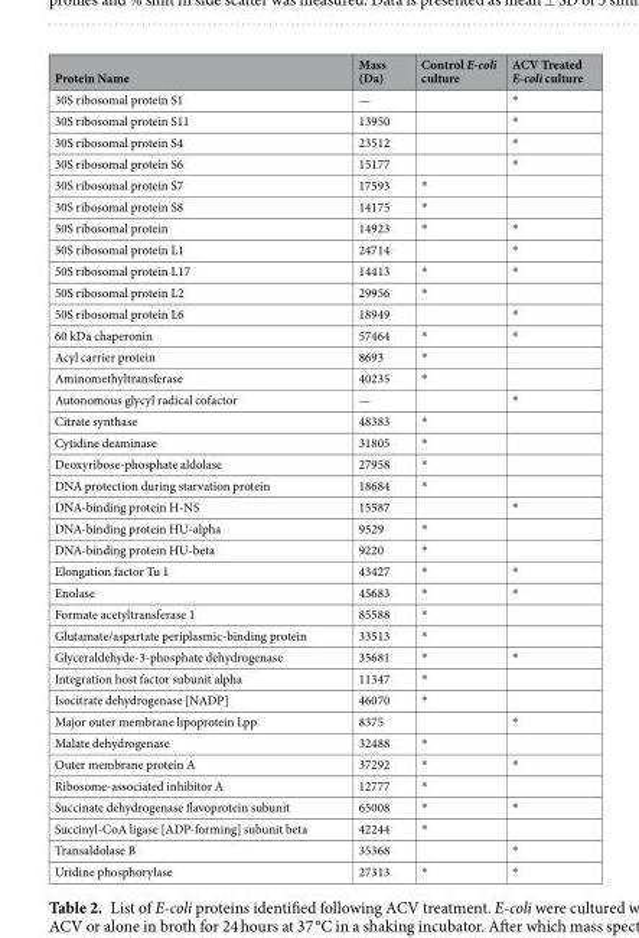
<table><thead><tr><td>Protein Name</td><td>Mass (Da)</td><td>Control E-coli culture</td><td>ACV Treated E-coli culture</td></tr></thead><tbody><tr><td>30S ribosomal protein S1</td><td>—</td><td></td><td>*</td></tr><tr><td>30S ribosomal protein S11</td><td>13950</td><td></td><td>*</td></tr><tr><td>30S ribosomal protein S4</td><td>23512</td><td></td><td>*</td></tr><tr><td>30S ribosomal protein S6</td><td>15177</td><td></td><td>*</td></tr><tr><td>30S ribosomal protein S7</td><td>17593</td><td>*</td><td></td></tr><tr><td>30S ribosomal protein S8</td><td>14175</td><td>*</td><td></td></tr><tr><td>50S ribosomal protein</td><td>14923</td><td>*</td><td>*</td></tr><tr><td>50S ribosomal protein L1</td><td>24714</td><td></td><td>*</td></tr><tr><td>50S ribosomal protein L17</td><td>14413</td><td>*</td><td>*</td></tr><tr><td>50S ribosomal protein L2</td><td>29956</td><td>*</td><td></td></tr><tr><td>50S ribosomal protein L6</td><td>18949</td><td></td><td>*</td></tr><tr><td>60 kDa chaperonin</td><td>57464</td><td>*</td><td>*</td></tr><tr><td>Acyl carrier protein</td><td>8693</td><td>*</td><td></td></tr><tr><td>Aminomethyltransferase</td><td>40235</td><td>*</td><td></td></tr><tr><td>Autonomous glycyl radical cofactor</td><td>—</td><td></td><td>*</td></tr><tr><td>Citrate synthase</td><td>48383</td><td>*</td><td></td></tr><tr><td>Cytidine deaminase</td><td>31805</td><td>*</td><td></td></tr><tr><td>Deoxyribose-phosphate aldolase</td><td>27958</td><td>*</td><td></td></tr><tr><td>DNA protection during starvation protein</td><td>18684</td><td>*</td><td></td></tr><tr><td>DNA-binding protein H-NS</td><td>15587</td><td></td><td>*</td></tr><tr><td>DNA-binding protein HU-alpha</td><td>9529</td><td>*</td><td></td></tr><tr><td>DNA-binding protein HU-beta</td><td>9220</td><td>*</td><td></td></tr><tr><td>Elongation factor Tu 1</td><td>43427</td><td>*</td><td>*</td></tr><tr><td>Enolase</td><td>45683</td><td>*</td><td>*</td></tr><tr><td>Formate acetyltransferase 1</td><td>85588</td><td>*</td><td></td></tr><tr><td>Glutamate/aspartate periplasmic-binding protein</td><td>33513</td><td>*</td><td></td></tr><tr><td>Glyceraldehyde-3-phosphate dehydrogenase</td><td>35681</td><td>*</td><td>*</td></tr><tr><td>Integration host factor subunit alpha</td><td>11347</td><td>*</td><td></td></tr><tr><td>Isocitrate dehydrogenase [NADP]</td><td>46070</td><td>*</td><td></td></tr><tr><td>Major outer membrane lipoprotein Lpp</td><td>8375</td><td></td><td>*</td></tr><tr><td>Malate dehydrogenase</td><td>32488</td><td>*</td><td></td></tr><tr><td>Outer membrane protein A</td><td>37292</td><td>*</td><td>*</td></tr><tr><td>Ribosome-associated inhibitor A</td><td>12777</td><td>*</td><td></td></tr><tr><td>Succinate dehydrogenase flavoprotein subunit</td><td>65008</td><td>*</td><td>*</td></tr><tr><td>Succinyl-CoA ligase [ADP-forming] subunit beta</td><td>42244</td><td>*</td><td></td></tr><tr><td>Transaldolase B</td><td>35368</td><td></td><td>*</td></tr><tr><td>Uridine phosphorylase</td><td>27313</td><td>*</td><td>*</td></tr></tbody></table>